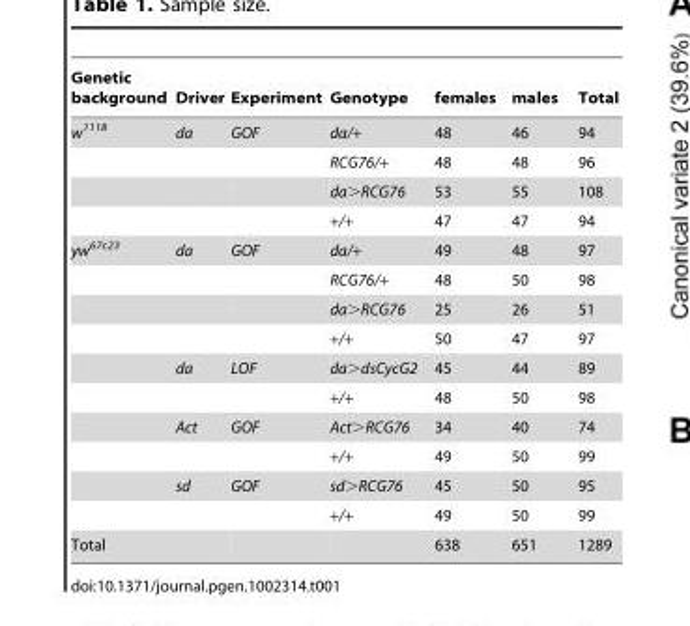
<table><thead><tr><td>Genetic background</td><td>Driver</td><td>Experiment</td><td>Genotype</td><td>females</td><td>males</td><td>Total</td></tr></thead><tbody><tr><td rowspan="4">w<sup>1118</sup></td><td>da</td><td>GOF</td><td>da/+</td><td>48</td><td>46</td><td>94</td></tr><tr><td></td><td></td><td>RCG76/+</td><td>48</td><td>48</td><td>96</td></tr><tr><td></td><td></td><td>da&gt;RCG76</td><td>53</td><td>55</td><td>108</td></tr><tr><td></td><td></td><td>+/+</td><td>47</td><td>47</td><td>94</td></tr><tr><td rowspan="10">yw<sup>67c23</sup></td><td>da</td><td>GOF</td><td>da/+</td><td>49</td><td>48</td><td>97</td></tr><tr><td></td><td></td><td>RCG76/+</td><td>48</td><td>50</td><td>98</td></tr><tr><td></td><td></td><td>da&gt;RCG76</td><td>25</td><td>26</td><td>51</td></tr><tr><td></td><td></td><td>+/+</td><td>50</td><td>47</td><td>97</td></tr><tr><td>da</td><td>LOF</td><td>da&gt;dsCycG2</td><td>45</td><td>44</td><td>89</td></tr><tr><td></td><td></td><td>+/+</td><td>48</td><td>50</td><td>98</td></tr><tr><td>Act</td><td>GOF</td><td>Act&gt;RCG76</td><td>34</td><td>40</td><td>74</td></tr><tr><td></td><td></td><td>+/+</td><td>49</td><td>50</td><td>99</td></tr><tr><td>sd</td><td>GOF</td><td>sd&gt;RCG76</td><td>45</td><td>50</td><td>95</td></tr><tr><td></td><td></td><td>+/+</td><td>49</td><td>50</td><td>99</td></tr><tr><td>Total</td><td></td><td></td><td></td><td>638</td><td>651</td><td>1289</td></tr></tbody></table>